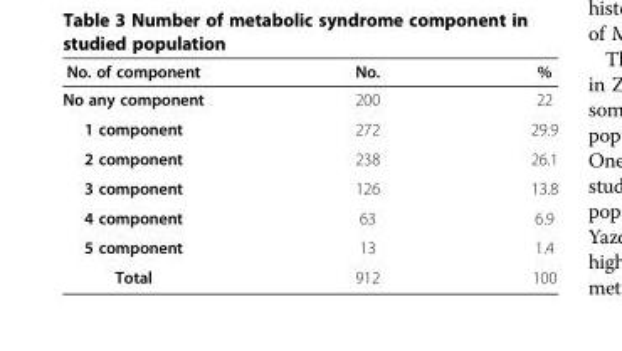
<table><thead><tr><td>No. of component</td><td>No.</td><td>%</td></tr></thead><tbody><tr><td>No any component</td><td>200</td><td>22</td></tr><tr><td>1 component</td><td>272</td><td>29.9</td></tr><tr><td>2 component</td><td>238</td><td>26.1</td></tr><tr><td>3 component</td><td>126</td><td>13.8</td></tr><tr><td>4 component</td><td>63</td><td>6.9</td></tr><tr><td>5 component</td><td>13</td><td>1.4</td></tr><tr><td>Total</td><td>912</td><td>100</td></tr></tbody></table>